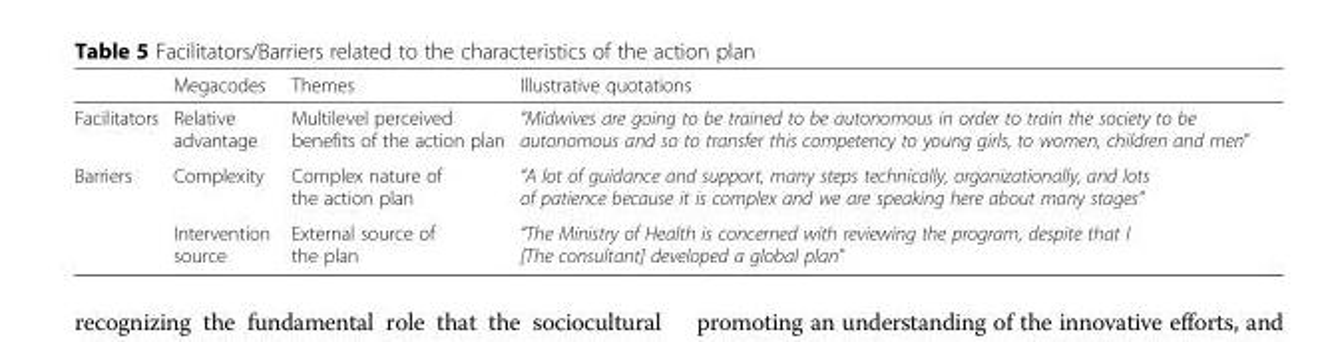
<table><thead><tr><td></td><td>Megacodes</td><td>Themes</td><td>Illustrative quotations</td></tr></thead><tbody><tr><td>Facilitators</td><td>Relative advantage</td><td>Multilevel perceived benefits of the action plan</td><td>“Midwives are going to be trained to be autonomous in order to train the society to be autonomous and so to transfer this competency to young girls, to women, children and men”</td></tr><tr><td rowspan="2">Barriers</td><td>Complexity</td><td>Complex nature of the action plan</td><td>“A lot of guidance and support, many steps technically, organizationally, and lots of patience because it is complex and we are speaking here about many stages”</td></tr><tr><td>Intervention source</td><td>External source of the plan</td><td>“The Ministry of Health is concerned with reviewing the program, despite that I [The consultant] developed a global plan”</td></tr></tbody></table>